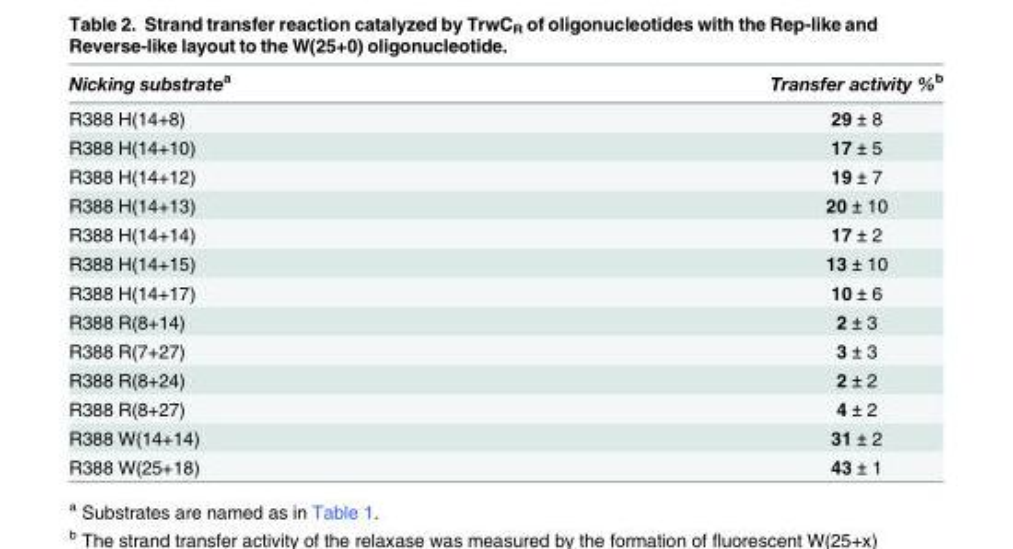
<table><thead><tr><td>Nicking substrate<sup>a</sup></td><td>Transfer activity %<sup>b</sup></td></tr></thead><tbody><tr><td>R388 H(14+8)</td><td>29 ± 8</td></tr><tr><td>R388 H(14+10)</td><td>17 ± 5</td></tr><tr><td>R388 H(14+12)</td><td>19 ± 7</td></tr><tr><td>R388 H(14+13)</td><td>20 ± 10</td></tr><tr><td>R388 H(14+14)</td><td>17 ± 2</td></tr><tr><td>R388 H(14+15)</td><td>13 ± 10</td></tr><tr><td>R388 H(14+17)</td><td>10 ± 6</td></tr><tr><td>R388 R(8+14)</td><td>2 ± 3</td></tr><tr><td>R388 R(7+27)</td><td>3 ± 3</td></tr><tr><td>R388 R(8+24)</td><td>2 ± 2</td></tr><tr><td>R388 R(8+27)</td><td>4 ± 2</td></tr><tr><td>R388 W(14+14)</td><td>31 ± 2</td></tr><tr><td>R388 W(25+18)</td><td>43 ± 1</td></tr></tbody></table>